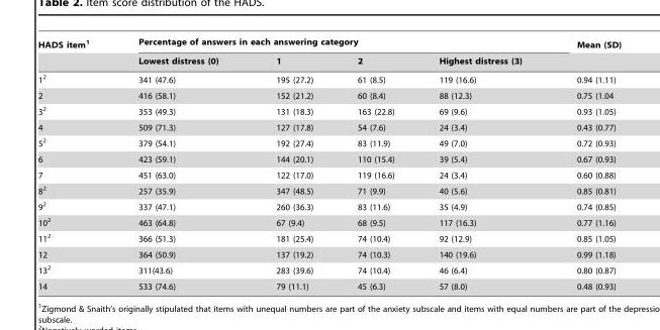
<table><thead><tr><td rowspan="2">HADS item<sup>1</sup></td><td colspan="4">Percentage of answers in each answering category</td><td rowspan="2">Mean (SD)</td></tr><tr><td>Lowest distress (0)</td><td>1</td><td>2</td><td>Highest distress (3)</td></tr></thead><tbody><tr><td>1<sup>2</sup></td><td>341 (47.6)</td><td>195 (27.2)</td><td>61 (8.5)</td><td>119 (16.6)</td><td>0.94 (1.11)</td></tr><tr><td>2</td><td>416 (58.1)</td><td>152 (21.2)</td><td>60 (8.4)</td><td>88 (12.3)</td><td>0.75 (1.04</td></tr><tr><td>3<sup>2</sup></td><td>353 (49.3)</td><td>131 (18.3)</td><td>163 (22.8)</td><td>69 (9.6)</td><td>0.93 (1.05)</td></tr><tr><td>4</td><td>509 (71.3)</td><td>127 (17.8)</td><td>54 (7.6)</td><td>24 (3.4)</td><td>0.43 (0.77)</td></tr><tr><td>5<sup>2</sup></td><td>379 (54.1)</td><td>192 (27.4)</td><td>83 (11.9)</td><td>49 (7.0)</td><td>0.72 (0.93)</td></tr><tr><td>6</td><td>423 (59.1)</td><td>144 (20.1)</td><td>110 (15.4)</td><td>39 (5.4)</td><td>0.67 (0.93)</td></tr><tr><td>7</td><td>451 (63.0)</td><td>122 (17.0)</td><td>119 (16.6)</td><td>24 (3.4)</td><td>0.60 (0.88)</td></tr><tr><td>8<sup>2</sup></td><td>257 (35.9)</td><td>347 (48.5)</td><td>71 (9.9)</td><td>40 (5.6)</td><td>0.85 (0.81)</td></tr><tr><td>9<sup>2</sup></td><td>337 (47.1)</td><td>260 (36.3)</td><td>83 (11.6)</td><td>35 (4.9)</td><td>0.74 (0.85)</td></tr><tr><td>10<sup>2</sup></td><td>463 (64.8)</td><td>67 (9.4)</td><td>68 (9.5)</td><td>117 (16.3)</td><td>0.77 (1.16)</td></tr><tr><td>11<sup>2</sup></td><td>366 (51.3)</td><td>181 (25.4)</td><td>74 (10.4)</td><td>92 (12.9)</td><td>0.85 (1.05)</td></tr><tr><td>12</td><td>364 (50.9)</td><td>137 (19.2)</td><td>74 (10.3)</td><td>140 (19.6)</td><td>0.99 (1.18)</td></tr><tr><td>13<sup>2</sup></td><td>311(43.6)</td><td>283 (39.6)</td><td>74 (10.4)</td><td>46 (6.4)</td><td>0.80 (0.87)</td></tr><tr><td>14</td><td>533 (74.6)</td><td>79 (11.1)</td><td>45 (6.3)</td><td>57 (8.0)</td><td>0.48 (0.93)</td></tr></tbody></table>